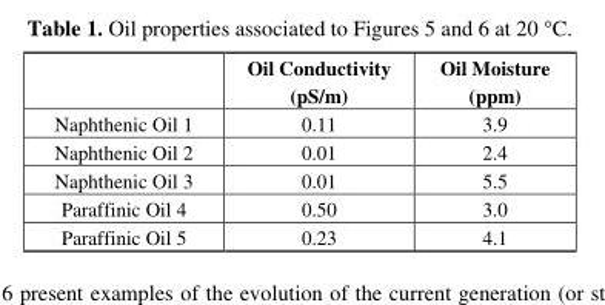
<table><thead><tr><td></td><td>Oil Conductivity (pS/m)</td><td>Oil Moisture (ppm)</td></tr></thead><tbody><tr><td>Naphthenic Oil 1</td><td>0.11</td><td>3.9</td></tr><tr><td>Naphthenic Oil 2</td><td>0.01</td><td>2.4</td></tr><tr><td>Naphthenic Oil 3</td><td>0.01</td><td>5.5</td></tr><tr><td>Paraffinic Oil 4</td><td>0.50</td><td>3.0</td></tr><tr><td>Paraffinic Oil 5</td><td>0.23</td><td>4.1</td></tr></tbody></table>